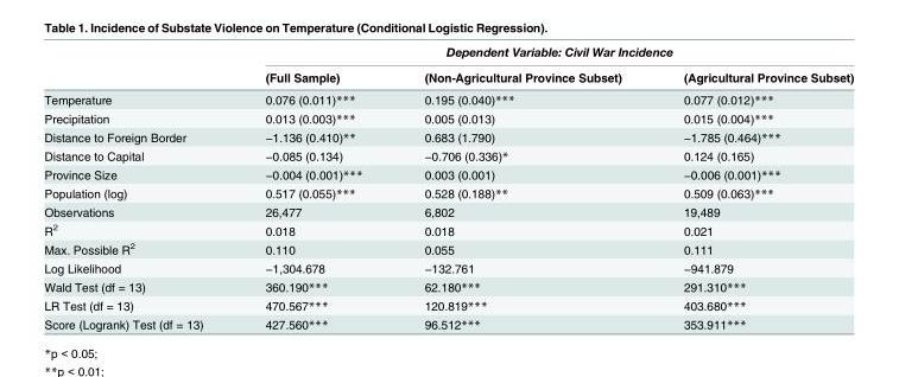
<table><thead><tr><td rowspan="2"></td><td colspan="3">Dependent Variable: Civil War Incidence</td></tr><tr><td>(Full Sample)</td><td>(Non-Agricultural Province Subset)</td><td>(Agricultural Province Subset)</td></tr></thead><tbody><tr><td>Temperature</td><td>0.076 (0.011)***</td><td>0.195 (0.040)***</td><td>0.077 (0.012)***</td></tr><tr><td>Precipitation</td><td>0.013 (0.003)***</td><td>0.005 (0.013)</td><td>0.015 (0.004)***</td></tr><tr><td>Distance to Foreign Border</td><td>−1.136 (0.410)**</td><td>0.683 (1.790)</td><td>−1.785 (0.464)***</td></tr><tr><td>Distance to Capital</td><td>−0.085 (0.134)</td><td>−0.706 (0.336)*</td><td>0.124 (0.165)</td></tr><tr><td>Province Size</td><td>−0.004 (0.001)***</td><td>0.003 (0.001)</td><td>−0.006 (0.001)***</td></tr><tr><td>Population (log)</td><td>0.517 (0.055)***</td><td>0.528 (0.188)**</td><td>0.509 (0.063)***</td></tr><tr><td>Observations</td><td>26,477</td><td>6,802</td><td>19,489</td></tr><tr><td>R<sup>2</sup></td><td>0.018</td><td>0.018</td><td>0.021</td></tr><tr><td>Max. Possible R<sup>2</sup></td><td>0.110</td><td>0.055</td><td>0.111</td></tr><tr><td>Log Likelihood</td><td>−1,304.678</td><td>−132.761</td><td>−941.879</td></tr><tr><td>Wald Test (df = 13)</td><td>360.190***</td><td>62.180***</td><td>291.310***</td></tr><tr><td>LR Test (df = 13)</td><td>470.567***</td><td>120.819***</td><td>403.680***</td></tr><tr><td>Score (Logrank) Test (df = 13)</td><td>427.560***</td><td>96.512***</td><td>353.911***</td></tr></tbody></table>